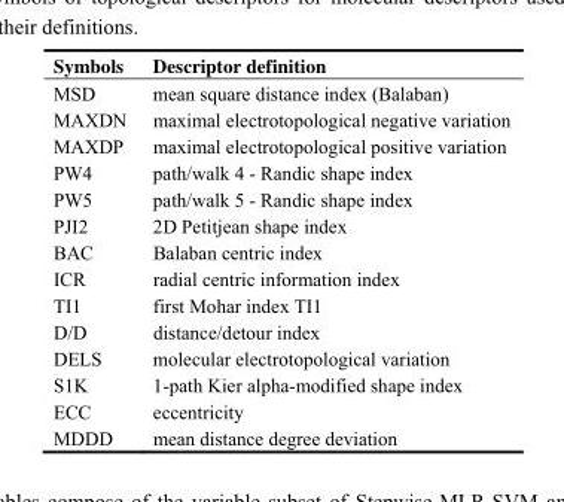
<table><thead><tr><td>Symbols</td><td>Descriptor definition</td></tr></thead><tbody><tr><td>MSD</td><td>mean square distance index (Balaban)</td></tr><tr><td>MAXDN</td><td>maximal electrotopological negative variation</td></tr><tr><td>MAXDP</td><td>maximal electrotopological positive variation</td></tr><tr><td>PW4</td><td>path/walk 4 - Randic shape index</td></tr><tr><td>PW5</td><td>path/walk 5 - Randic shape index</td></tr><tr><td>PJI2</td><td>2D Petitjean shape index</td></tr><tr><td>BAC</td><td>Balaban centric index</td></tr><tr><td>ICR</td><td>radial centric information index</td></tr><tr><td>TI1</td><td>first Mohar index TI1</td></tr><tr><td>D/D</td><td>distance/detour index</td></tr><tr><td>DELS</td><td>molecular electrotopological variation</td></tr><tr><td>S1K</td><td>1-path Kier alpha-modified shape index</td></tr><tr><td>ECC</td><td>eccentricity</td></tr><tr><td>MDDD</td><td>mean distance degree deviation</td></tr></tbody></table>